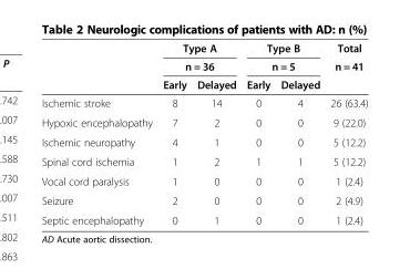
<table><thead><tr><td rowspan="3"></td><td rowspan="2" colspan="2">Type A n = 36</td><td rowspan="2" colspan="2">Type B n = 5</td><td rowspan="3">Total n = 41</td></tr><tr></tr><tr><td>Early</td><td>Delayed</td><td>Early</td><td>Delayed</td></tr></thead><tbody><tr><td>Ischemic stroke</td><td>8</td><td>14</td><td>0</td><td>4</td><td>26 (63.4)</td></tr><tr><td>Hypoxic encephalopathy</td><td>7</td><td>2</td><td>0</td><td>0</td><td>9 (22.0)</td></tr><tr><td>Ischemic neuropathy</td><td>4</td><td>1</td><td>0</td><td>0</td><td>5 (12.2)</td></tr><tr><td>Spinal cord ischemia</td><td>1</td><td>2</td><td>1</td><td>1</td><td>5 (12.2)</td></tr><tr><td>Vocal cord paralysis</td><td>1</td><td>0</td><td>0</td><td>0</td><td>1 (2.4)</td></tr><tr><td>Seizure</td><td>2</td><td>0</td><td>0</td><td>0</td><td>2 (4.9)</td></tr><tr><td>Septic encephalopathy</td><td>0</td><td>1</td><td>0</td><td>0</td><td>1 (2.4)</td></tr></tbody></table>